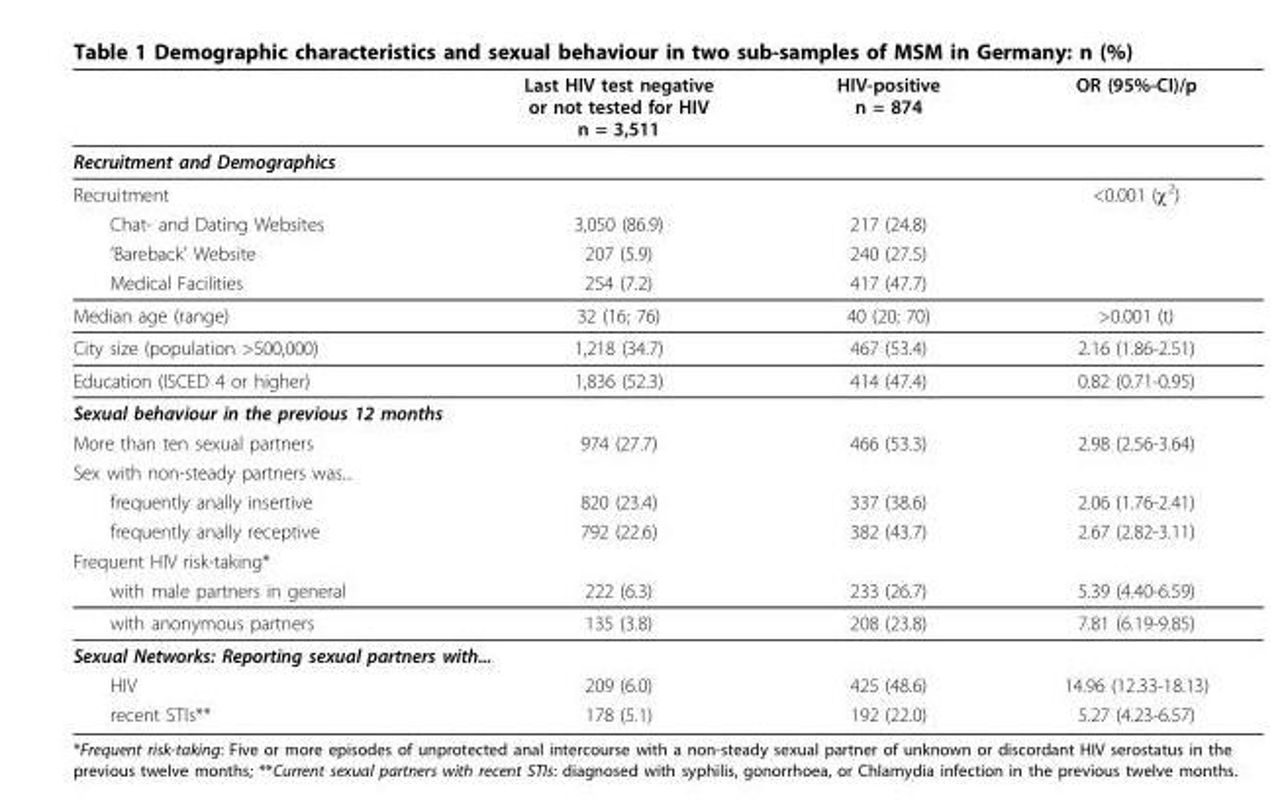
<table><thead><tr><td></td><td>Last HIV test negative or not tested for HIV n = 3,511</td><td>HIV-positive n = 874</td><td>OR (95%-CI)/p</td></tr></thead><tbody><tr><td colspan="4">Recruitment and Demographics</td></tr><tr><td>Recruitment</td><td></td><td></td><td>&lt;0.001 (χ<sup>2</sup>)</td></tr><tr><td>Chat- and Dating Websites</td><td>3,050 (86.9)</td><td>217 (24.8)</td><td></td></tr><tr><td>’Bareback’ Website</td><td>207 (5.9)</td><td>240 (27.5)</td><td></td></tr><tr><td>Medical Facilities</td><td>254 (7.2)</td><td>417 (47.7)</td><td></td></tr><tr><td>Median age (range)</td><td>32 (16; 76)</td><td>40 (20; 70)</td><td>&gt;0.001 (t)</td></tr><tr><td>City size (population &gt;500,000)</td><td>1,218 (34.7)</td><td>467 (53.4)</td><td>2.16 (1.86-2.51)</td></tr><tr><td>Education (ISCED 4 or higher)</td><td>1,836 (52.3)</td><td>414 (47.4)</td><td>0.82 (0.71-0.95)</td></tr><tr><td colspan="4">Sexual behaviour in the previous 12 months</td></tr><tr><td>More than ten sexual partners</td><td>974 (27.7)</td><td>466 (53.3)</td><td>2.98 (2.56-3.64)</td></tr><tr><td colspan="4">Sex with non-steady partners was...</td></tr><tr><td>frequently anally insertive</td><td>820 (23.4)</td><td>337 (38.6)</td><td>2.06 (1.76-2.41)</td></tr><tr><td>frequently anally receptive</td><td>792 (22.6)</td><td>382 (43.7)</td><td>2.67 (2.82-3.11)</td></tr><tr><td colspan="4">Frequent HIV risk-taking*</td></tr><tr><td>with male partners in general</td><td>222 (6.3)</td><td>233 (26.7)</td><td>5.39 (4.40-6.59)</td></tr><tr><td>with anonymous partners</td><td>135 (3.8)</td><td>208 (23.8)</td><td>7.81 (6.19-9.85)</td></tr><tr><td colspan="4">Sexual Networks: Reporting sexual partners with...</td></tr><tr><td>HIV</td><td>209 (6.0)</td><td>425 (48.6)</td><td>14.96 (12.33-18.13)</td></tr><tr><td>recent STIs**</td><td>178 (5.1)</td><td>192 (22.0)</td><td>5.27 (4.23-6.57)</td></tr></tbody></table>